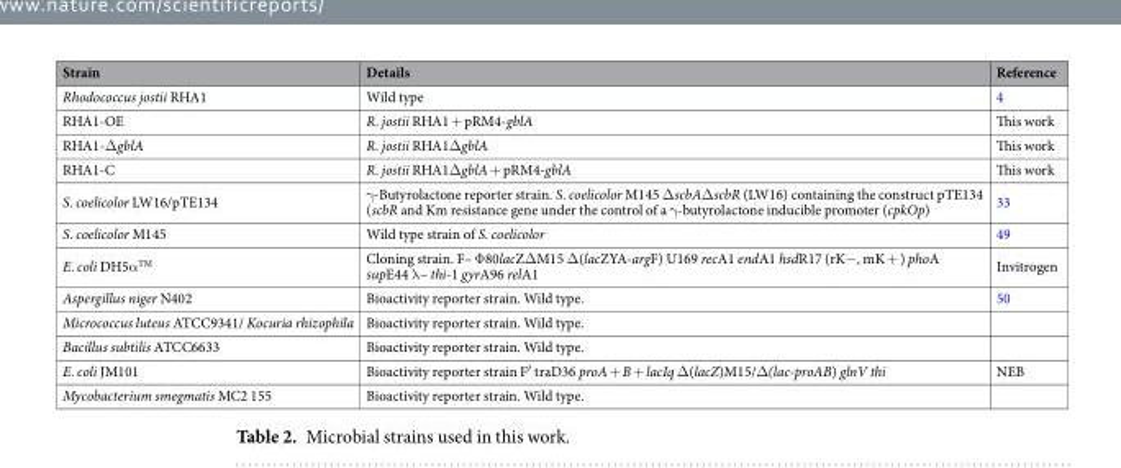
<table><thead><tr><td>Strain</td><td>Details</td><td>Reference</td></tr></thead><tbody><tr><td>Rhodococcus jostii RHA1</td><td>Wild type</td><td>4</td></tr><tr><td>RHA1-OE</td><td>R. jostii RHA1 + pRM4-gblA</td><td>This work</td></tr><tr><td>RHA1-ΔgblA</td><td>R. jostii RHA1ΔgblA</td><td>This work</td></tr><tr><td>RHA1-C</td><td>R. jostii RHA1ΔgblA + pRM4-gblA</td><td>This work</td></tr><tr><td>S. coelicolor LW16/pTE134</td><td>γ-Butyrolactone reporter strain. S. coelicolor M145 ΔscbAΔscbR (LW16) containing the construct pTE134 (scbR and Km resistance gene under the control of a γ-butyrolactone inducible promoter (cpkOp)</td><td>33</td></tr><tr><td>S. coelicolor M145</td><td>Wild type strain of S. coelicolor</td><td>49</td></tr><tr><td>E. coli DH5α<sup>TM</sup></td><td>Cloning strain. F– Φ80lacZΔM15 Δ(lacZYA-argF) U169 recA1 endA1 hsdR17 (rK−, mK + ) phoA supE44 λ– thi-1 gyrA96 relA1</td><td>Invitrogen</td></tr><tr><td>Aspergillus niger N402</td><td>Bioactivity reporter strain. Wild type.</td><td>50</td></tr><tr><td>Micrococcus luteus ATCC9341/ Kocuria rhizophila</td><td>Bioactivity reporter strain. Wild type.</td><td></td></tr><tr><td>Bacillus subtilis ATCC6633</td><td>Bioactivity reporter strain. Wild type.</td><td></td></tr><tr><td>E. coli JM101</td><td>Bioactivity reporter strain F′ traD36 proA + B + lacIq Δ(lacZ)M15/Δ(lac-proAB) glnV thi</td><td>NEB</td></tr><tr><td>Mycobacterium smegmatis MC2 155</td><td>Bioactivity reporter strain. Wild type.</td><td></td></tr></tbody></table>